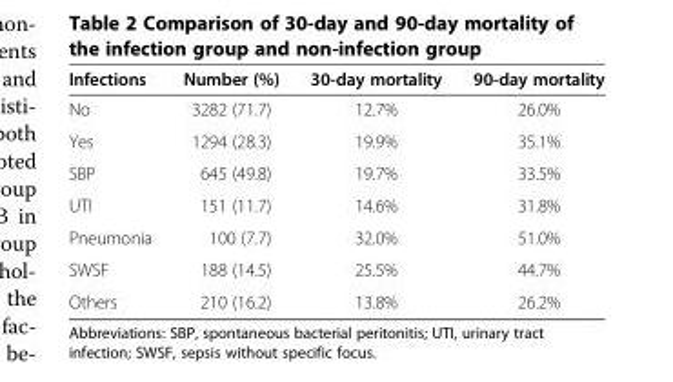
<table><thead><tr><td>Infections</td><td>Number (%)</td><td>30-day mortality</td><td>90-day mortality</td></tr></thead><tbody><tr><td>No</td><td>3282 (71.7)</td><td>12.7%</td><td>26.0%</td></tr><tr><td>Yes</td><td>1294 (28.3)</td><td>19.9%</td><td>35.1%</td></tr><tr><td>SBP</td><td>645 (49.8)</td><td>19.7%</td><td>33.5%</td></tr><tr><td>UTI</td><td>151 (11.7)</td><td>14.6%</td><td>31.8%</td></tr><tr><td>Pneumonia</td><td>100 (7.7)</td><td>32.0%</td><td>51.0%</td></tr><tr><td>SWSF</td><td>188 (14.5)</td><td>25.5%</td><td>44.7%</td></tr><tr><td>Others</td><td>210 (16.2)</td><td>13.8%</td><td>26.2%</td></tr></tbody></table>